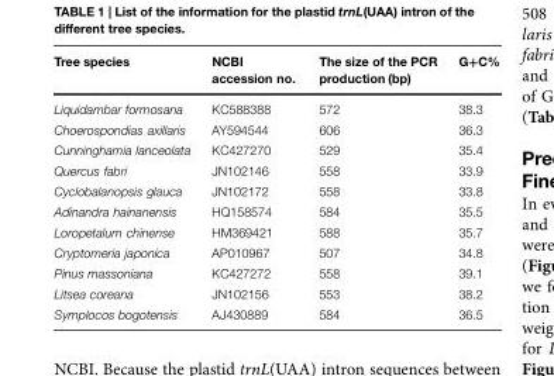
<table><thead><tr><td>Tree species</td><td>NCBI accession no.</td><td>The size of the PCR production (bp)</td><td>G+C%</td></tr></thead><tbody><tr><td>Liquidambar formosana</td><td>KC588388</td><td>572</td><td>38.3</td></tr><tr><td>Choerospondias axillaris</td><td>AY594544</td><td>606</td><td>36.3</td></tr><tr><td>Cunninghamia lanceolata</td><td>KC427270</td><td>529</td><td>35.4</td></tr><tr><td>Quercus fabri</td><td>JN102146</td><td>558</td><td>33.9</td></tr><tr><td>Cyclobalanopsis glauca</td><td>JN102172</td><td>558</td><td>33.8</td></tr><tr><td>Adinandra hainanensis</td><td>HQ158574</td><td>584</td><td>35.5</td></tr><tr><td>Loropetalum chinense</td><td>HM369421</td><td>588</td><td>35.7</td></tr><tr><td>Cryptomeria japonica</td><td>AP010967</td><td>507</td><td>34.8</td></tr><tr><td>Pinus massoniana</td><td>KC427272</td><td>558</td><td>39.1</td></tr><tr><td>Litsea coreana</td><td>JN102156</td><td>553</td><td>38.2</td></tr><tr><td>Symplocos bogotensis</td><td>AJ430889</td><td>584</td><td>36.5</td></tr></tbody></table>